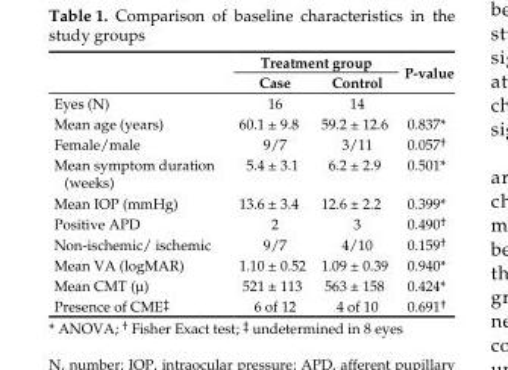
<table><thead><tr><td rowspan="2"></td><td colspan="2">Treatment group</td><td rowspan="2">P‑value</td></tr><tr><td>Case</td><td>Control</td></tr></thead><tbody><tr><td>Eyes (N)</td><td>16</td><td>14</td><td></td></tr><tr><td>Mean age (years)</td><td>60.1 ± 9.8</td><td>59.2 ± 12.6</td><td>0.837*</td></tr><tr><td>Female/male</td><td>9/7</td><td>3/11</td><td>0.057†</td></tr><tr><td>Mean symptom duration (weeks)</td><td>5.4 ± 3.1</td><td>6.2 ± 2.9</td><td>0.501*</td></tr><tr><td>Mean IOP (mmHg)</td><td>13.6 ± 3.4</td><td>12.6 ± 2.2</td><td>0.399*</td></tr><tr><td>Positive APD</td><td>2</td><td>3</td><td>0.490†</td></tr><tr><td>Non-ischemic/ ischemic</td><td>9/7</td><td>4/10</td><td>0.159†</td></tr><tr><td>Mean VA (logMAR)</td><td>1.10 ± 0.52</td><td>1.09 ± 0.39</td><td>0.940*</td></tr><tr><td>Mean CMT (µ)</td><td>521 ± 113</td><td>563 ± 158</td><td>0.424*</td></tr><tr><td>Presence of CME‡</td><td>6 of 12</td><td>4 of 10</td><td>0.691†</td></tr></tbody></table>